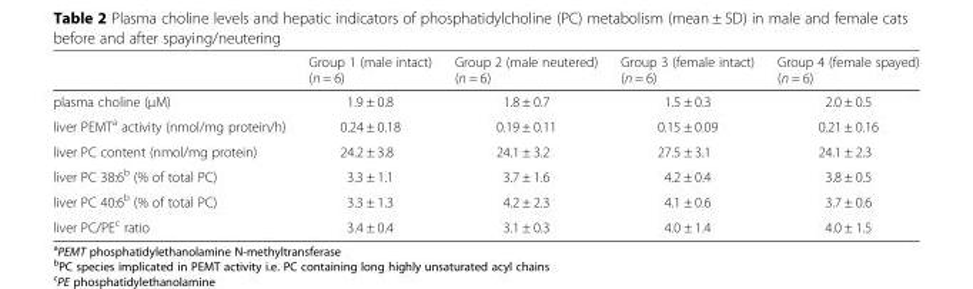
<table><thead><tr><td></td><td>Group 1 (male intact) (n = 6)</td><td>Group 2 (male neutered) (n = 6)</td><td>Group 3 (female intact) (n = 6)</td><td>Group 4 (female spayed) (n = 6)</td></tr></thead><tbody><tr><td>plasma choline (μM)</td><td>1.9 ± 0.8</td><td>1.8 ± 0.7</td><td>1.5 ± 0.3</td><td>2.0 ± 0.5</td></tr><tr><td>liver PEMT<sup>a</sup> activity (nmol/mg protein/h)</td><td>0.24 ± 0.18</td><td>0.19 ± 0.11</td><td>0.15 ± 0.09</td><td>0.21 ± 0.16</td></tr><tr><td>liver PC content (nmol/mg protein)</td><td>24.2 ± 3.8</td><td>24.1 ± 3.2</td><td>27.5 ± 3.1</td><td>24.1 ± 2.3</td></tr><tr><td>liver PC 38:6<sup>b</sup> (% of total PC)</td><td>3.3 ± 1.1</td><td>3.7 ± 1.6</td><td>4.2 ± 0.4</td><td>3.8 ± 0.5</td></tr><tr><td>liver PC 40:6<sup>b</sup> (% of total PC)</td><td>3.3 ± 1.3</td><td>4.2 ± 2.3</td><td>4.1 ± 0.6</td><td>3.7 ± 0.6</td></tr><tr><td>liver PC/PE<sup>c</sup> ratio</td><td>3.4 ± 0.4</td><td>3.1 ± 0.3</td><td>4.0 ± 1.4</td><td>4.0 ± 1.5</td></tr></tbody></table>